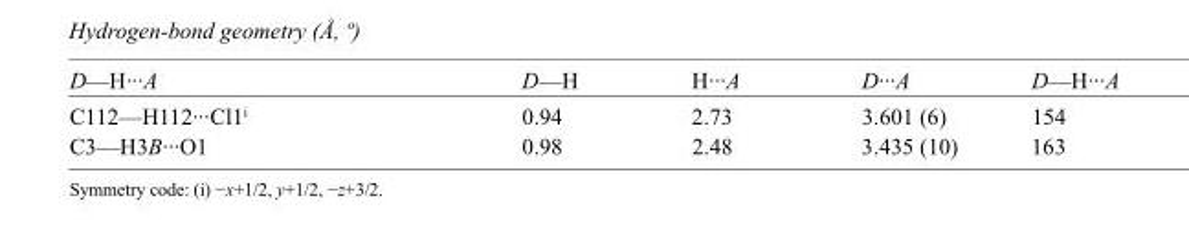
<table><tbody><tr><td>D—H···A</td><td>D—H</td><td>H···A</td><td>D···A</td><td>D—H···A</td></tr><tr><td>C112—H112···Cl1<sup>i</sup></td><td>0.94</td><td>2.73</td><td>3.601 (6)</td><td>154</td></tr><tr><td>C3—H3B···O1</td><td>0.98</td><td>2.48</td><td>3.435 (10)</td><td>163</td></tr></tbody></table>